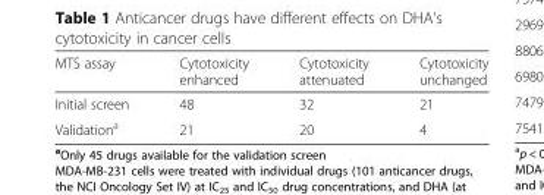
<table><thead><tr><td>MTS assay</td><td>Cytotoxicity enhanced</td><td>Cytotoxicity attenuated</td><td>Cytotoxicity unchanged</td></tr></thead><tbody><tr><td>Initial screen</td><td>48</td><td>32</td><td>21</td></tr><tr><td>Validation<sup>a</sup></td><td>21</td><td>20</td><td>4</td></tr></tbody></table>